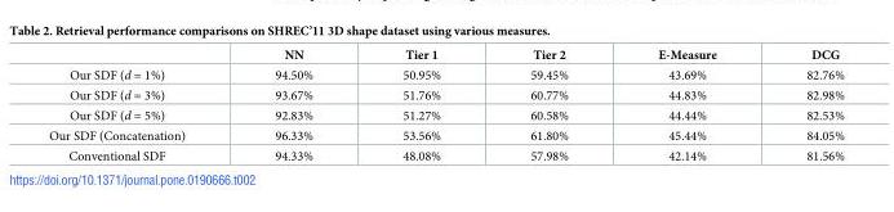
<table><thead><tr><td></td><td>NN</td><td>Tier 1</td><td>Tier 2</td><td>E-Measure</td><td>DCG</td></tr></thead><tbody><tr><td>Our SDF (d = 1%)</td><td>94.50%</td><td>50.95%</td><td>59.45%</td><td>43.69%</td><td>82.76%</td></tr><tr><td>Our SDF (d = 3%)</td><td>93.67%</td><td>51.76%</td><td>60.77%</td><td>44.83%</td><td>82.98%</td></tr><tr><td>Our SDF (d = 5%)</td><td>92.83%</td><td>51.27%</td><td>60.58%</td><td>44.44%</td><td>82.53%</td></tr><tr><td>Our SDF (Concatenation)</td><td>96.33%</td><td>53.56%</td><td>61.80%</td><td>45.44%</td><td>84.05%</td></tr><tr><td>Conventional SDF</td><td>94.33%</td><td>48.08%</td><td>57.98%</td><td>42.14%</td><td>81.56%</td></tr></tbody></table>